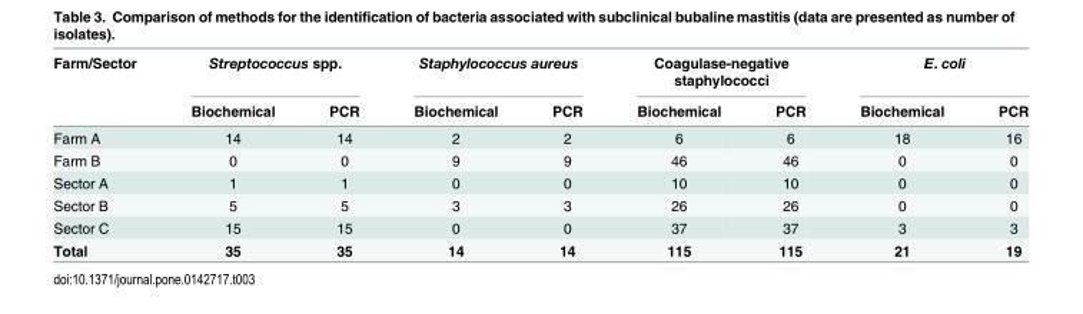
<table><thead><tr><td rowspan="2">Farm/Sector</td><td colspan="2">Streptococcus spp.</td><td colspan="2">Staphylococcus aureus</td><td colspan="2">Coagulase-negative staphylococci</td><td colspan="2">E. coli</td></tr><tr><td>Biochemical</td><td>PCR</td><td>Biochemical</td><td>PCR</td><td>Biochemical</td><td>PCR</td><td>Biochemical</td><td>PCR</td></tr></thead><tbody><tr><td>Farm A</td><td>14</td><td>14</td><td>2</td><td>2</td><td>6</td><td>6</td><td>18</td><td>16</td></tr><tr><td>Farm B</td><td>0</td><td>0</td><td>9</td><td>9</td><td>46</td><td>46</td><td>0</td><td>0</td></tr><tr><td>Sector A</td><td>1</td><td>1</td><td>0</td><td>0</td><td>10</td><td>10</td><td>0</td><td>0</td></tr><tr><td>Sector B</td><td>5</td><td>5</td><td>3</td><td>3</td><td>26</td><td>26</td><td>0</td><td>0</td></tr><tr><td>Sector C</td><td>15</td><td>15</td><td>0</td><td>0</td><td>37</td><td>37</td><td>3</td><td>3</td></tr><tr><td>Total</td><td>35</td><td>35</td><td>14</td><td>14</td><td>115</td><td>115</td><td>21</td><td>19</td></tr></tbody></table>